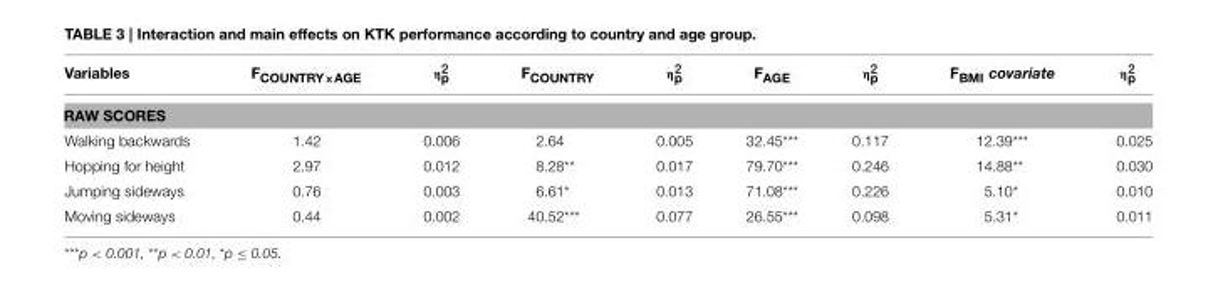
<table><thead><tr><td>Variables</td><td>F<sub>COUNTRY×AGE</sub></td><td>η<sup>2</sup><sub>p</sub></td><td>F<sub>COUNTRY</sub></td><td>η<sup>2</sup><sub>p</sub></td><td>F<sub>AGE</sub></td><td>η<sup>2</sup><sub>p</sub></td><td>F<sub>BMI</sub> covariate</td><td>η<sup>2</sup><sub>p</sub></td></tr></thead><tbody><tr><td colspan="9">RAW SCORES</td></tr><tr><td>Walking backwards</td><td>1.42</td><td>0.006</td><td>2.64</td><td>0.005</td><td>32.45***</td><td>0.117</td><td>12.39***</td><td>0.025</td></tr><tr><td>Hopping for height</td><td>2.97</td><td>0.012</td><td>8.28**</td><td>0.017</td><td>79.70***</td><td>0.246</td><td>14.88**</td><td>0.030</td></tr><tr><td>Jumping sideways</td><td>0.76</td><td>0.003</td><td>6.61*</td><td>0.013</td><td>71.08***</td><td>0.226</td><td>5.10*</td><td>0.010</td></tr><tr><td>Moving sideways</td><td>0.44</td><td>0.002</td><td>40.52***</td><td>0.077</td><td>26.55***</td><td>0.098</td><td>5.31*</td><td>0.011</td></tr></tbody></table>